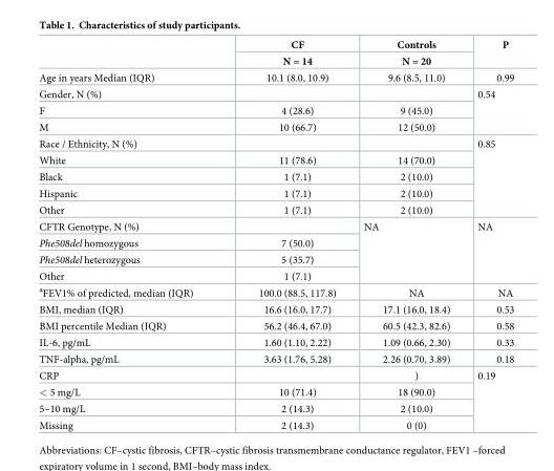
<table><thead><tr><td rowspan="2"></td><td rowspan="2">CF N = 14</td><td rowspan="2">Controls N = 20</td><td rowspan="2">P</td></tr><tr></tr></thead><tbody><tr><td>Age in years Median (IQR)</td><td>10.1 (8.0, 10.9)</td><td>9.6 (8.5, 11.0)</td><td>0.99</td></tr><tr><td colspan="3">Gender, N (%)</td><td rowspan="3">0.54</td></tr><tr><td>F</td><td>4 (28.6)</td><td>9 (45.0)</td></tr><tr><td>M</td><td>10 (66.7)</td><td>12 (50.0)</td></tr><tr><td colspan="3">Race / Ethnicity, N (%)</td><td rowspan="5">0.85</td></tr><tr><td>White</td><td>11 (78.6)</td><td>14 (70.0)</td></tr><tr><td>Black</td><td>1 (7.1)</td><td>2 (10.0)</td></tr><tr><td>Hispanic</td><td>1 (7.1)</td><td>2 (10.0)</td></tr><tr><td>Other</td><td>1 (7.1)</td><td>2 (10.0)</td></tr><tr><td colspan="2">CFTR Genotype, N (%)</td><td rowspan="4">NA</td><td rowspan="4">NA</td></tr><tr><td>Phe508del homozygous</td><td>7 (50.0)</td></tr><tr><td>Phe508del heterozygous</td><td>5 (35.7)</td></tr><tr><td>Other</td><td>1 (7.1)</td></tr><tr><td><sup>a</sup>FEV1% of predicted, median (IQR)</td><td>100.0 (88.5, 117.8)</td><td>NA</td><td>NA</td></tr><tr><td>BMI, median (IQR)</td><td>16.6 (16.0, 17.7)</td><td>17.1 (16.0, 18.4)</td><td>0.53</td></tr><tr><td>BMI percentile Median (IQR)</td><td>56.2 (46.4, 67.0)</td><td>60.5 (42.3, 82.6)</td><td>0.58</td></tr><tr><td>IL-6, pg/mL</td><td>1.60 (1.10, 2.22)</td><td>1.09 (0.66, 2.30)</td><td>0.33</td></tr><tr><td>TNF-alpha, pg/mL</td><td>3.63 (1.76, 5.28)</td><td>2.26 (0.70, 3.89)</td><td>0.18</td></tr><tr><td>CRP</td><td></td><td>)</td><td rowspan="4">0.19</td></tr><tr><td>&lt; 5 mg/L</td><td>10 (71.4)</td><td>18 (90.0)</td></tr><tr><td>5–10 mg/L</td><td>2 (14.3)</td><td>2 (10.0)</td></tr><tr><td>Missing</td><td>2 (14.3)</td><td>0 (0)</td></tr></tbody></table>